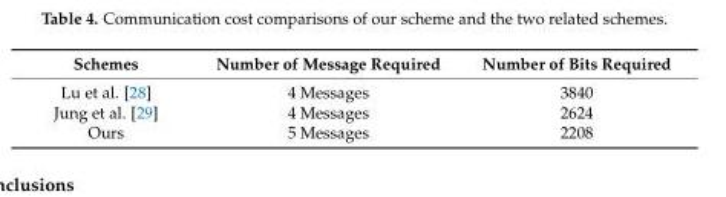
<table><thead><tr><td>Schemes</td><td>Number of Message Required</td><td>Number of Bits Required</td></tr></thead><tbody><tr><td>Lu et al. [28]</td><td>4 Messages</td><td>3840</td></tr><tr><td>Jung et al. [29]</td><td>4 Messages</td><td>2624</td></tr><tr><td>Ours</td><td>5 Messages</td><td>2208</td></tr></tbody></table>